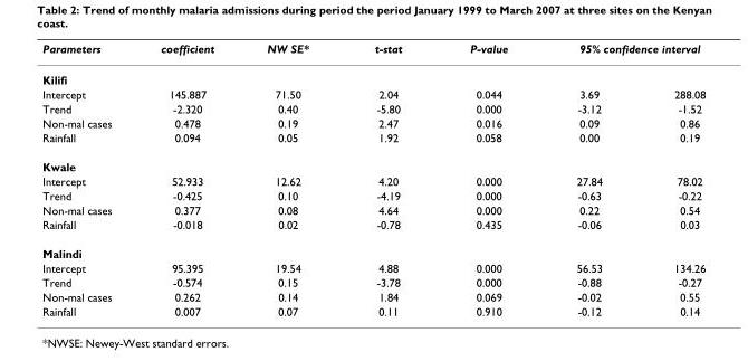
<table><thead><tr><td rowspan="2">Parameters Kilifi</td><td rowspan="2">coefficient</td><td rowspan="2">NW SE*</td><td rowspan="2">t-stat</td><td rowspan="2">P-value</td><td colspan="2">95% confidence interval</td></tr><tr><td></td><td></td></tr></thead><tbody><tr><td>Intercept</td><td>145.887</td><td>71.50</td><td>2.04</td><td>0.044</td><td>3.69</td><td>288.08</td></tr><tr><td>Trend</td><td>-2.320</td><td>0.40</td><td>-5.80</td><td>0.000</td><td>-3.12</td><td>-1.52</td></tr><tr><td>Non-mal cases</td><td>0.478</td><td>0.19</td><td>2.47</td><td>0.016</td><td>0.09</td><td>0.86</td></tr><tr><td>Rainfall</td><td>0.094</td><td>0.05</td><td>1.92</td><td>0.058</td><td>0.00</td><td>0.19</td></tr><tr><td colspan="7">Kwale</td></tr><tr><td>Intercept</td><td>52.933</td><td>12.62</td><td>4.20</td><td>0.000</td><td>27.84</td><td>78.02</td></tr><tr><td>Trend</td><td>-0.425</td><td>0.10</td><td>-4.19</td><td>0.000</td><td>-0.63</td><td>-0.22</td></tr><tr><td>Non-mal cases</td><td>0.377</td><td>0.08</td><td>4.64</td><td>0.000</td><td>0.22</td><td>0.54</td></tr><tr><td>Rainfall</td><td>-0.018</td><td>0.02</td><td>-0.78</td><td>0.435</td><td>-0.06</td><td>0.03</td></tr><tr><td colspan="7">Malindi</td></tr><tr><td>Intercept</td><td>95.395</td><td>19.54</td><td>4.88</td><td>0.000</td><td>56.53</td><td>134.26</td></tr><tr><td>Trend</td><td>-0.574</td><td>0.15</td><td>-3.78</td><td>0.000</td><td>-0.88</td><td>-0.27</td></tr><tr><td>Non-mal cases</td><td>0.262</td><td>0.14</td><td>1.84</td><td>0.069</td><td>-0.02</td><td>0.55</td></tr><tr><td>Rainfall</td><td>0.007</td><td>0.07</td><td>0.11</td><td>0.910</td><td>-0.12</td><td>0.14</td></tr></tbody></table>